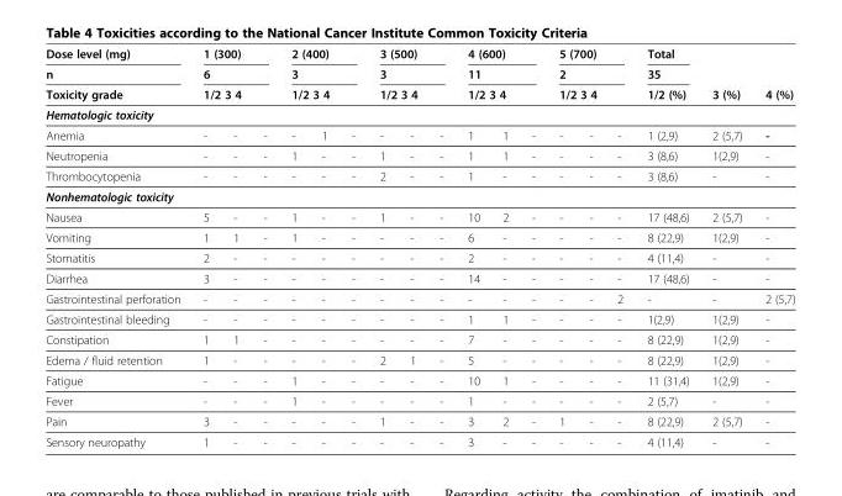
<table><thead><tr><td rowspan="3">Dose level (mg) n Toxicity grade</td><td rowspan="3" colspan="3">1 (300) 6 1/2 3 4</td><td rowspan="3" colspan="3">2 (400) 3 1/2 3 4</td><td rowspan="3" colspan="3">3 (500) 3 1/2 3 4</td><td rowspan="3" colspan="3">4 (600) 11 1/2 3 4</td><td rowspan="3" colspan="3">5 (700) 2 1/2 3 4</td><td rowspan="3">Total 35 1/2 (%)</td><td rowspan="3">3 (%)</td><td rowspan="3">4 (%)</td></tr><tr></tr><tr></tr><tr><td colspan="19">Hematologic toxicity</td></tr><tr><td>Anemia</td><td>-</td><td>-</td><td>-</td><td>-</td><td>1</td><td>-</td><td>-</td><td>-</td><td>-</td><td>1</td><td>1</td><td>-</td><td>-</td><td>-</td><td>-</td><td>1 (2,9)</td><td>2 (5,7)</td><td>-</td></tr></thead><tbody><tr><td>Neutropenia</td><td>-</td><td>-</td><td>-</td><td>1</td><td>-</td><td>-</td><td>1</td><td>-</td><td>-</td><td>1</td><td>1</td><td>-</td><td>-</td><td>-</td><td>-</td><td>3 (8,6)</td><td>1(2,9)</td><td>-</td></tr><tr><td>Thrombocytopenia</td><td>-</td><td>-</td><td>-</td><td>-</td><td>-</td><td>-</td><td>2</td><td>-</td><td>-</td><td>1</td><td>-</td><td>-</td><td>-</td><td>-</td><td>-</td><td>3 (8,6)</td><td>-</td><td>-</td></tr><tr><td colspan="19">Nonhematologic toxicity</td></tr><tr><td>Nausea</td><td>5</td><td>-</td><td>-</td><td>1</td><td>-</td><td>-</td><td>1</td><td>-</td><td>-</td><td>10</td><td>2</td><td>-</td><td>-</td><td>-</td><td>-</td><td>17 (48,6)</td><td>2 (5,7)</td><td>-</td></tr><tr><td>Vomiting</td><td>1</td><td>1</td><td>-</td><td>1</td><td>-</td><td>-</td><td>-</td><td>-</td><td>-</td><td>6</td><td>-</td><td>-</td><td>-</td><td>-</td><td>-</td><td>8 (22,9)</td><td>1(2,9)</td><td>-</td></tr><tr><td>Stomatitis</td><td>2</td><td>-</td><td>-</td><td>-</td><td>-</td><td>-</td><td>-</td><td>-</td><td>-</td><td>2</td><td>-</td><td>-</td><td>-</td><td>-</td><td>-</td><td>4 (11,4)</td><td>-</td><td>-</td></tr><tr><td>Diarrhea</td><td>3</td><td>-</td><td>-</td><td>-</td><td>-</td><td>-</td><td>-</td><td>-</td><td>-</td><td>14</td><td>-</td><td>-</td><td>-</td><td>-</td><td>-</td><td>17 (48,6)</td><td>-</td><td>-</td></tr><tr><td>Gastrointestinal perforation</td><td>-</td><td>-</td><td>-</td><td>-</td><td>-</td><td>-</td><td>-</td><td>-</td><td>-</td><td>-</td><td>-</td><td>-</td><td>-</td><td>-</td><td>2</td><td>-</td><td>-</td><td>2 (5,7)</td></tr><tr><td>Gastrointestinal bleeding</td><td>-</td><td>-</td><td>-</td><td>-</td><td>-</td><td>-</td><td>-</td><td>-</td><td>-</td><td>1</td><td>1</td><td>-</td><td>-</td><td>-</td><td>-</td><td>1(2,9)</td><td>1(2,9)</td><td>-</td></tr><tr><td>Constipation</td><td>1</td><td>1</td><td>-</td><td>-</td><td>-</td><td>-</td><td>-</td><td>-</td><td>-</td><td>7</td><td>-</td><td>-</td><td>-</td><td>-</td><td>-</td><td>8 (22,9)</td><td>1(2,9)</td><td>-</td></tr><tr><td>Edema / fluid retention</td><td>1</td><td>-</td><td>-</td><td>-</td><td>-</td><td>-</td><td>2</td><td>1</td><td>-</td><td>5</td><td>-</td><td>-</td><td>-</td><td>-</td><td>-</td><td>8 (22,9)</td><td>1(2,9)</td><td>-</td></tr><tr><td>Fatigue</td><td>-</td><td>-</td><td>-</td><td>1</td><td>-</td><td>-</td><td>-</td><td>-</td><td>-</td><td>10</td><td>1</td><td>-</td><td>-</td><td>-</td><td>-</td><td>11 (31,4)</td><td>1(2,9)</td><td>-</td></tr><tr><td>Fever</td><td>-</td><td>-</td><td>-</td><td>1</td><td>-</td><td>-</td><td>-</td><td>-</td><td>-</td><td>1</td><td>-</td><td>-</td><td>-</td><td>-</td><td>-</td><td>2 (5,7)</td><td>-</td><td>-</td></tr><tr><td>Pain</td><td>3</td><td>-</td><td>-</td><td>-</td><td>-</td><td>-</td><td>1</td><td>-</td><td>-</td><td>3</td><td>2</td><td>-</td><td>1</td><td>-</td><td>-</td><td>8 (22,9)</td><td>2 (5,7)</td><td>-</td></tr><tr><td>Sensory neuropathy</td><td>1</td><td>-</td><td>-</td><td>-</td><td>-</td><td>-</td><td>-</td><td>-</td><td>-</td><td>3</td><td>-</td><td>-</td><td>-</td><td>-</td><td>-</td><td>4 (11,4)</td><td>-</td><td>-</td></tr></tbody></table>